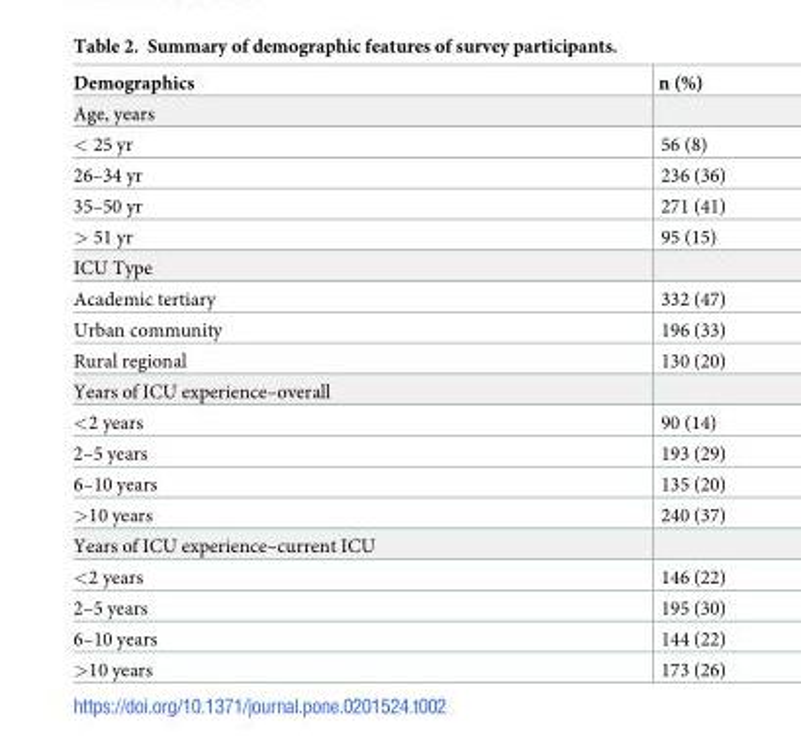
<table><thead><tr><td>Demographics</td><td>n (%)</td></tr></thead><tbody><tr><td colspan="2">Age, years</td></tr><tr><td>&lt; 25 yr</td><td>56 (8)</td></tr><tr><td>26–34 yr</td><td>236 (36)</td></tr><tr><td>35–50 yr</td><td>271 (41)</td></tr><tr><td>&gt; 51 yr</td><td>95 (15)</td></tr><tr><td colspan="2">ICU Type</td></tr><tr><td>Academic tertiary</td><td>332 (47)</td></tr><tr><td>Urban community</td><td>196 (33)</td></tr><tr><td>Rural regional</td><td>130 (20)</td></tr><tr><td colspan="2">Years of ICU experience–overall</td></tr><tr><td>&lt;2 years</td><td>90 (14)</td></tr><tr><td>2–5 years</td><td>193 (29)</td></tr><tr><td>6–10 years</td><td>135 (20)</td></tr><tr><td>&gt;10 years</td><td>240 (37)</td></tr><tr><td colspan="2">Years of ICU experience–current ICU</td></tr><tr><td>&lt;2 years</td><td>146 (22)</td></tr><tr><td>2–5 years</td><td>195 (30)</td></tr><tr><td>6–10 years</td><td>144 (22)</td></tr><tr><td>&gt;10 years</td><td>173 (26)</td></tr></tbody></table>